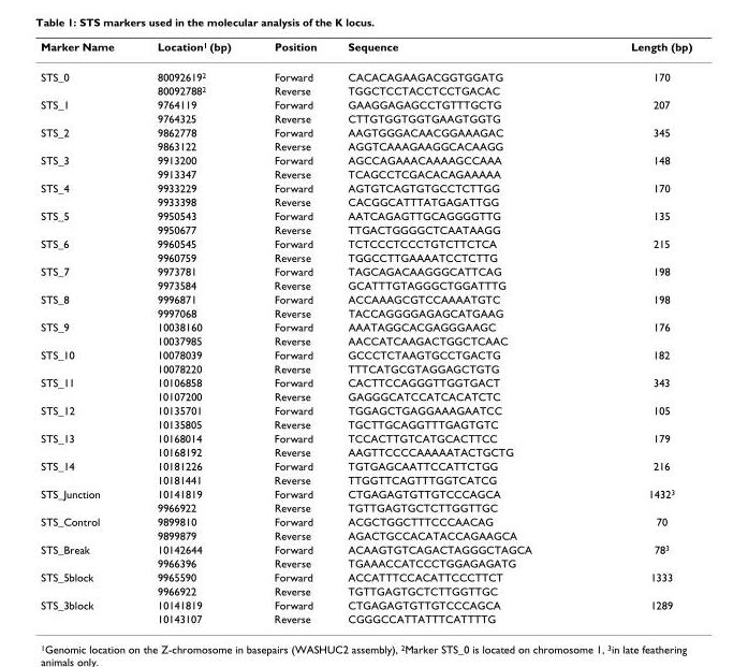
<table><thead><tr><td>Marker Name</td><td>Location<sup>1</sup> (bp)</td><td>Position</td><td>Sequence</td><td>Length (bp)</td></tr></thead><tbody><tr><td rowspan="2">STS_0</td><td>80092619<sup>2</sup></td><td>Forward</td><td>CACACAGAAGACGGTGGATG</td><td>170</td></tr><tr><td>80092788<sup>2</sup></td><td>Reverse</td><td>TGGCTCCTACCTCCTGACAC</td><td></td></tr><tr><td rowspan="2">STS_1</td><td>9764119</td><td>Forward</td><td>GAAGGAGAGCCTGTTTGCTG</td><td>207</td></tr><tr><td>9764325</td><td>Reverse</td><td>CTTGTGGTGGTGAAGTGGTG</td><td></td></tr><tr><td rowspan="2">STS_2</td><td>9862778</td><td>Forward</td><td>AAGTGGGACAACGGAAAGAC</td><td>345</td></tr><tr><td>9863122</td><td>Reverse</td><td>AGGTCAAAGAAGGCACAAGG</td><td></td></tr><tr><td rowspan="2">STS_3</td><td>9913200</td><td>Forward</td><td>AGCCAGAAACAAAAGCCAAA</td><td>148</td></tr><tr><td>9913347</td><td>Reverse</td><td>TCAGCCTCGACACAGAAAAA</td><td></td></tr><tr><td rowspan="2">STS_4</td><td>9933229</td><td>Forward</td><td>AGTGTCAGTGTGCCTCTTGG</td><td>170</td></tr><tr><td>9933398</td><td>Reverse</td><td>CACGGCATTTATGAGATTGG</td><td></td></tr><tr><td rowspan="2">STS_5</td><td>9950543</td><td>Forward</td><td>AATCAGAGTTGCAGGGGTTG</td><td>135</td></tr><tr><td>9950677</td><td>Reverse</td><td>TTGACTGGGGCTCAATAAGG</td><td></td></tr><tr><td rowspan="2">STS_6</td><td>9960545</td><td>Forward</td><td>TCTCCCTCCCTGTCTTCTCA</td><td>215</td></tr><tr><td>9960759</td><td>Reverse</td><td>TGGCCTTGAAAATCCTCTTG</td><td></td></tr><tr><td rowspan="2">STS_7</td><td>9973781</td><td>Forward</td><td>TAGCAGACAAGGGCATTCAG</td><td>198</td></tr><tr><td>9973584</td><td>Reverse</td><td>GCATTTGTAGGGCTGGATTTG</td><td></td></tr><tr><td rowspan="2">STS_8</td><td>9996871</td><td>Forward</td><td>ACCAAAGCGTCCAAAATGTC</td><td>198</td></tr><tr><td>9997068</td><td>Reverse</td><td>TACCAGGGGAGAGCATGAAG</td><td></td></tr><tr><td rowspan="2">STS_9</td><td>10038160</td><td>Forward</td><td>AAATAGGCACGAGGGAAGC</td><td>176</td></tr><tr><td>10037985</td><td>Reverse</td><td>AACCATCAAGACTGGCTCAAC</td><td></td></tr><tr><td rowspan="2">STS_10</td><td>10078039</td><td>Forward</td><td>GCCCTCTAAGTGCCTGACTG</td><td>182</td></tr><tr><td>10078220</td><td>Reverse</td><td>TTTCATGCGTAGGAGCTGTG</td><td></td></tr><tr><td rowspan="2">STS_11</td><td>10106858</td><td>Forward</td><td>CACTTCCAGGGTTGGTGACT</td><td>343</td></tr><tr><td>10107200</td><td>Reverse</td><td>GAGGGCATCCATCACATCTC</td><td></td></tr><tr><td rowspan="2">STS_12</td><td>10135701</td><td>Forward</td><td>TGGAGCTGAGGAAAGAATCC</td><td>105</td></tr><tr><td>10135805</td><td>Reverse</td><td>TGCTTGCAGGTTTGAGTGTC</td><td></td></tr><tr><td rowspan="2">STS_13</td><td>10168014</td><td>Forward</td><td>TCCACTTGTCATGCACTTCC</td><td>179</td></tr><tr><td>10168192</td><td>Reverse</td><td>AAGTTCCCCAAAAATACTGCTG</td><td></td></tr><tr><td rowspan="2">STS_14</td><td>10181226</td><td>Forward</td><td>TGTGAGCAATTCCATTCTGG</td><td>216</td></tr><tr><td>10181441</td><td>Reverse</td><td>TTGGTTCAGTTTGGTCATCG</td><td></td></tr><tr><td rowspan="2">STS_Junction</td><td>10141819</td><td>Forward</td><td>CTGAGAGTGTTGTCCCAGCA</td><td>1432<sup>3</sup></td></tr><tr><td>9966922</td><td>Reverse</td><td>TGTTGAGTGCTCTTGGTTGC</td><td></td></tr><tr><td rowspan="2">STS_Control</td><td>9899810</td><td>Forward</td><td>ACGCTGGCTTTCCCAACAG</td><td>70</td></tr><tr><td>9899879</td><td>Reverse</td><td>AGACTGCCACATACCAGAAGCA</td><td></td></tr><tr><td rowspan="2">STS_Break</td><td>10142644</td><td>Forward</td><td>ACAAGTGTCAGACTAGGGCTAGCA</td><td>78<sup>3</sup></td></tr><tr><td>9966396</td><td>Reverse</td><td>TGAAACCATCCCTGGAGAGATG</td><td></td></tr><tr><td rowspan="2">STS_5block</td><td>9965590</td><td>Forward</td><td>ACCATTTCCACATTCCCTTCT</td><td>1333</td></tr><tr><td>9966922</td><td>Reverse</td><td>TGTTGAGTGCTCTTGGTTGC</td><td></td></tr><tr><td rowspan="2">STS_3block</td><td>10141819</td><td>Forward</td><td>CTGAGAGTGTTGTCCCAGCA</td><td>1289</td></tr><tr><td>10143107</td><td>Reverse</td><td>CGGGCCATTATTTCATTTTG</td><td></td></tr></tbody></table>